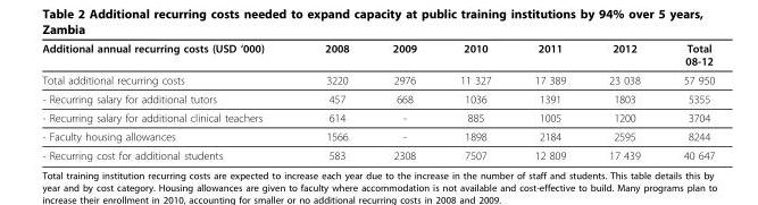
<table><thead><tr><td>Additional annual recurring costs (USD ‘000)</td><td>2008</td><td>2009</td><td>2010</td><td>2011</td><td>2012</td><td>Total 08-12</td></tr></thead><tbody><tr><td>Total additional recurring costs</td><td>3220</td><td>2976</td><td>11 327</td><td>17 389</td><td>23 038</td><td>57 950</td></tr><tr><td>- Recurring salary for additional tutors</td><td>457</td><td>668</td><td>1036</td><td>1391</td><td>1803</td><td>5355</td></tr><tr><td>- Recurring salary for additional clinical teachers</td><td>614</td><td>-</td><td>885</td><td>1005</td><td>1200</td><td>3704</td></tr><tr><td>- Faculty housing allowances</td><td>1566</td><td>-</td><td>1898</td><td>2184</td><td>2595</td><td>8244</td></tr><tr><td>- Recurring cost for additional students</td><td>583</td><td>2308</td><td>7507</td><td>12 809</td><td>17 439</td><td>40 647</td></tr></tbody></table>